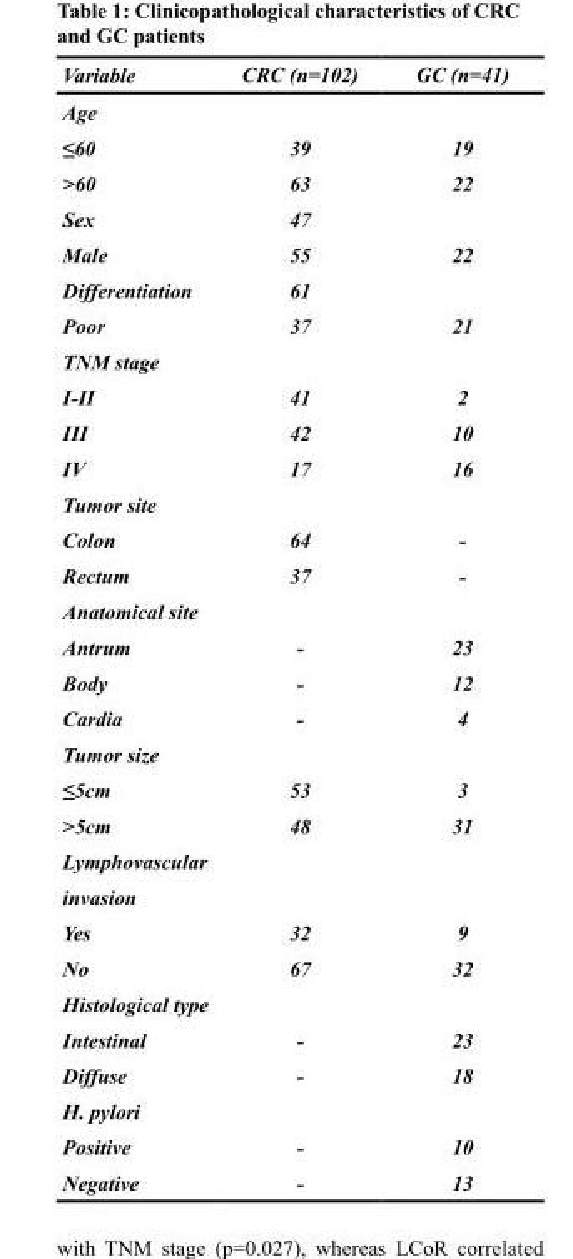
<table><thead><tr><td>Variable</td><td>CRC (n=102)</td><td>GC (n=41)</td></tr></thead><tbody><tr><td colspan="3">Age</td></tr><tr><td>≤60</td><td>39</td><td>19</td></tr><tr><td>&gt;60</td><td>63</td><td>22</td></tr><tr><td>Sex</td><td>47</td><td></td></tr><tr><td>Male</td><td>55</td><td>22</td></tr><tr><td>Differentiation</td><td>61</td><td></td></tr><tr><td>Poor</td><td>37</td><td>21</td></tr><tr><td colspan="3">TNM stage</td></tr><tr><td>I-II</td><td>41</td><td>2</td></tr><tr><td>III</td><td>42</td><td>10</td></tr><tr><td>IV</td><td>17</td><td>16</td></tr><tr><td colspan="3">Tumor site</td></tr><tr><td>Colon</td><td>64</td><td>-</td></tr><tr><td>Rectum</td><td>37</td><td>-</td></tr><tr><td colspan="3">Anatomical site</td></tr><tr><td>Antrum</td><td>-</td><td>23</td></tr><tr><td>Body</td><td>-</td><td>12</td></tr><tr><td>Cardia</td><td>-</td><td>4</td></tr><tr><td colspan="3">Tumor size</td></tr><tr><td>≤5cm</td><td>53</td><td>3</td></tr><tr><td>&gt;5cm</td><td>48</td><td>31</td></tr><tr><td colspan="3">Lymphovascular</td></tr><tr><td colspan="3">invasion</td></tr><tr><td>Yes</td><td>32</td><td>9</td></tr><tr><td>No</td><td>67</td><td>32</td></tr><tr><td colspan="3">Histological type</td></tr><tr><td>Intestinal</td><td>-</td><td>23</td></tr><tr><td>Diffuse</td><td>-</td><td>18</td></tr><tr><td colspan="3">H. pylori</td></tr><tr><td>Positive</td><td>-</td><td>10</td></tr><tr><td>Negative</td><td>-</td><td>13</td></tr></tbody></table>